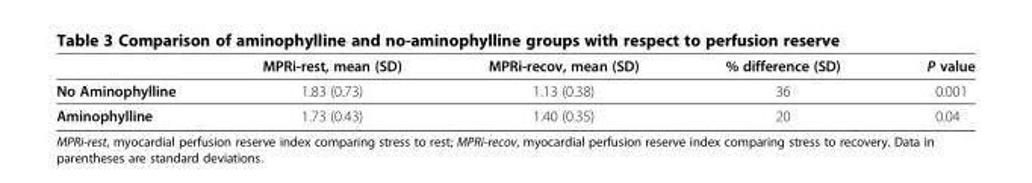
<table><thead><tr><td></td><td>MPRi-rest, mean (SD)</td><td>MPRi-recov, mean (SD)</td><td>% difference (SD)</td><td>P value</td></tr></thead><tbody><tr><td>No Aminophylline</td><td>1.83 (0.73)</td><td>1.13 (0.38)</td><td>36</td><td>0.001</td></tr><tr><td>Aminophylline</td><td>1.73 (0.43)</td><td>1.40 (0.35)</td><td>20</td><td>0.04</td></tr></tbody></table>